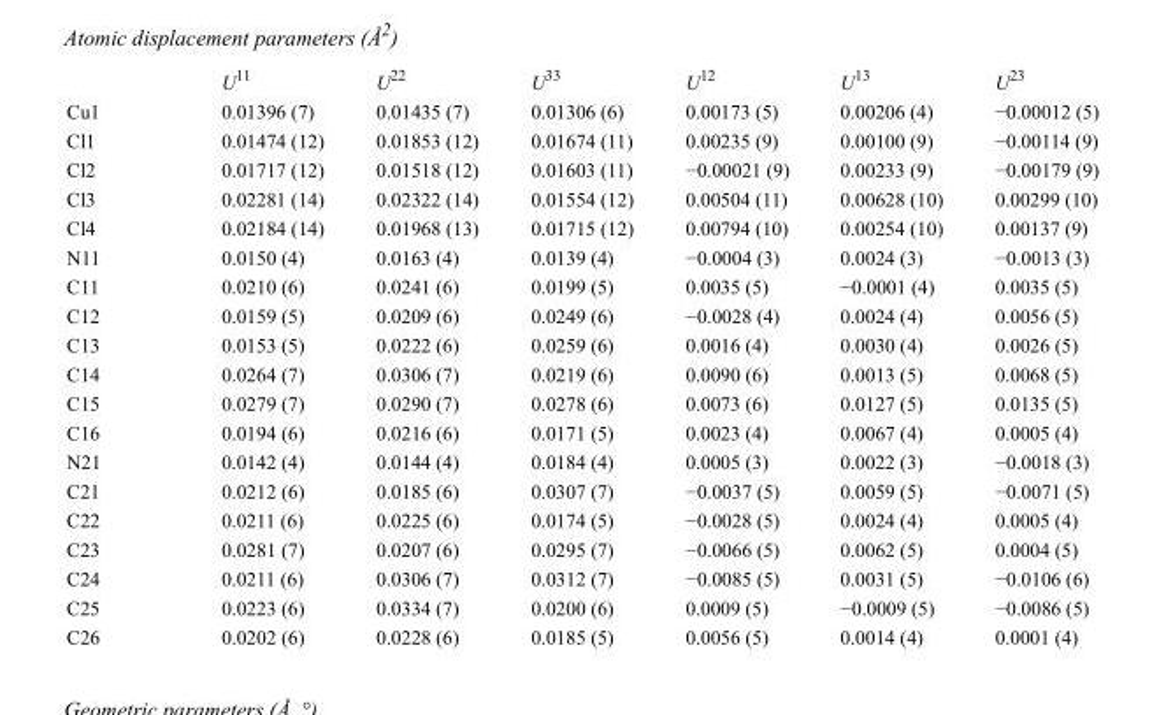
<table><thead><tr><td></td><td>U<sup>11</sup></td><td>U<sup>22</sup></td><td>U<sup>33</sup></td><td>U<sup>12</sup></td><td>U<sup>13</sup></td><td>U<sup>23</sup></td></tr></thead><tbody><tr><td>Cu1</td><td>0.01396 (7)</td><td>0.01435 (7)</td><td>0.01306 (6)</td><td>0.00173 (5)</td><td>0.00206 (4)</td><td>−0.00012 (5)</td></tr><tr><td>Cl1</td><td>0.01474 (12)</td><td>0.01853 (12)</td><td>0.01674 (11)</td><td>0.00235 (9)</td><td>0.00100 (9)</td><td>−0.00114 (9)</td></tr><tr><td>Cl2</td><td>0.01717 (12)</td><td>0.01518 (12)</td><td>0.01603 (11)</td><td>−0.00021 (9)</td><td>0.00233 (9)</td><td>−0.00179 (9)</td></tr><tr><td>Cl3</td><td>0.02281 (14)</td><td>0.02322 (14)</td><td>0.01554 (12)</td><td>0.00504 (11)</td><td>0.00628 (10)</td><td>0.00299 (10)</td></tr><tr><td>Cl4</td><td>0.02184 (14)</td><td>0.01968 (13)</td><td>0.01715 (12)</td><td>0.00794 (10)</td><td>0.00254 (10)</td><td>0.00137 (9)</td></tr><tr><td>N11</td><td>0.0150 (4)</td><td>0.0163 (4)</td><td>0.0139 (4)</td><td>−0.0004 (3)</td><td>0.0024 (3)</td><td>−0.0013 (3)</td></tr><tr><td>C11</td><td>0.0210 (6)</td><td>0.0241 (6)</td><td>0.0199 (5)</td><td>0.0035 (5)</td><td>−0.0001 (4)</td><td>0.0035 (5)</td></tr><tr><td>C12</td><td>0.0159 (5)</td><td>0.0209 (6)</td><td>0.0249 (6)</td><td>−0.0028 (4)</td><td>0.0024 (4)</td><td>0.0056 (5)</td></tr><tr><td>C13</td><td>0.0153 (5)</td><td>0.0222 (6)</td><td>0.0259 (6)</td><td>0.0016 (4)</td><td>0.0030 (4)</td><td>0.0026 (5)</td></tr><tr><td>C14</td><td>0.0264 (7)</td><td>0.0306 (7)</td><td>0.0219 (6)</td><td>0.0090 (6)</td><td>0.0013 (5)</td><td>0.0068 (5)</td></tr><tr><td>C15</td><td>0.0279 (7)</td><td>0.0290 (7)</td><td>0.0278 (6)</td><td>0.0073 (6)</td><td>0.0127 (5)</td><td>0.0135 (5)</td></tr><tr><td>C16</td><td>0.0194 (6)</td><td>0.0216 (6)</td><td>0.0171 (5)</td><td>0.0023 (4)</td><td>0.0067 (4)</td><td>0.0005 (4)</td></tr><tr><td>N21</td><td>0.0142 (4)</td><td>0.0144 (4)</td><td>0.0184 (4)</td><td>0.0005 (3)</td><td>0.0022 (3)</td><td>−0.0018 (3)</td></tr><tr><td>C21</td><td>0.0212 (6)</td><td>0.0185 (6)</td><td>0.0307 (7)</td><td>−0.0037 (5)</td><td>0.0059 (5)</td><td>−0.0071 (5)</td></tr><tr><td>C22</td><td>0.0211 (6)</td><td>0.0225 (6)</td><td>0.0174 (5)</td><td>−0.0028 (5)</td><td>0.0024 (4)</td><td>0.0005 (4)</td></tr><tr><td>C23</td><td>0.0281 (7)</td><td>0.0207 (6)</td><td>0.0295 (7)</td><td>−0.0066 (5)</td><td>0.0062 (5)</td><td>0.0004 (5)</td></tr><tr><td>C24</td><td>0.0211 (6)</td><td>0.0306 (7)</td><td>0.0312 (7)</td><td>−0.0085 (5)</td><td>0.0031 (5)</td><td>−0.0106 (6)</td></tr><tr><td>C25</td><td>0.0223 (6)</td><td>0.0334 (7)</td><td>0.0200 (6)</td><td>0.0009 (5)</td><td>−0.0009 (5)</td><td>−0.0086 (5)</td></tr><tr><td>C26</td><td>0.0202 (6)</td><td>0.0228 (6)</td><td>0.0185 (5)</td><td>0.0056 (5)</td><td>0.0014 (4)</td><td>0.0001 (4)</td></tr></tbody></table>